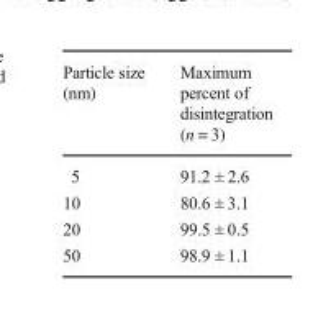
<table><thead><tr><td>Particle size (nm)</td><td>Maximum percent of disintegration (n = 3)</td></tr></thead><tbody><tr><td>5</td><td>91.2 ± 2.6</td></tr><tr><td>10</td><td>80.6 ± 3.1</td></tr><tr><td>20</td><td>99.5 ± 0.5</td></tr><tr><td>50</td><td>98.9 ± 1.1</td></tr></tbody></table>